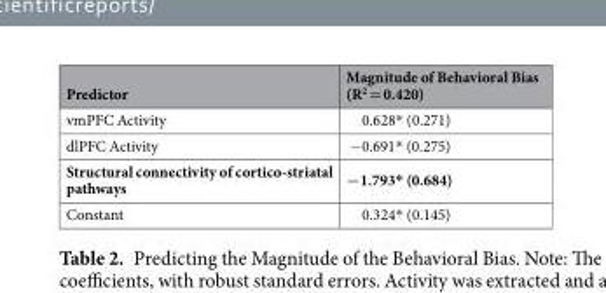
<table><thead><tr><td>Predictor</td><td>Magnitude of Behavioral Bias (R<sup>2</sup> = 0.420)</td></tr></thead><tbody><tr><td>vmPFC Activity</td><td>0.628* (0.271)</td></tr><tr><td>dlPFC Activity</td><td>−0.691* (0.275)</td></tr><tr><td>Structural connectivity of cortico-striatal pathways</td><td>−1.793* (0.684)</td></tr><tr><td>Constant</td><td>0.324* (0.145)</td></tr></tbody></table>